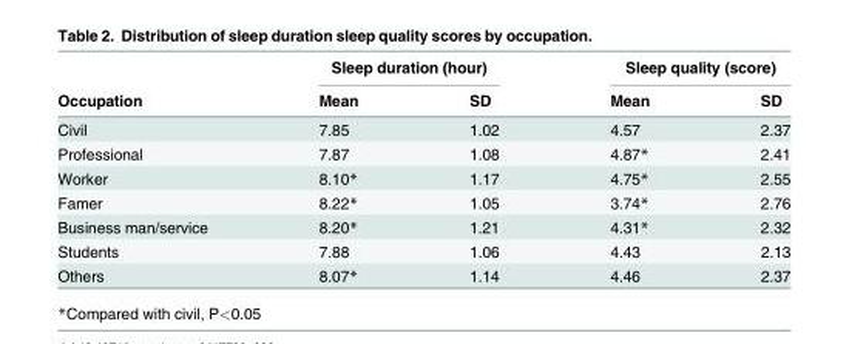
<table><thead><tr><td rowspan="2">Occupation</td><td colspan="2">Sleep duration (hour)</td><td colspan="2">Sleep quality (score)</td></tr><tr><td>Mean</td><td>SD</td><td>Mean</td><td>SD</td></tr></thead><tbody><tr><td>Civil</td><td>7.85</td><td>1.02</td><td>4.57</td><td>2.37</td></tr><tr><td>Professional</td><td>7.87</td><td>1.08</td><td>4.87*</td><td>2.41</td></tr><tr><td>Worker</td><td>8.10*</td><td>1.17</td><td>4.75*</td><td>2.55</td></tr><tr><td>Famer</td><td>8.22*</td><td>1.05</td><td>3.74*</td><td>2.76</td></tr><tr><td>Business man/service</td><td>8.20*</td><td>1.21</td><td>4.31*</td><td>2.32</td></tr><tr><td>Students</td><td>7.88</td><td>1.06</td><td>4.43</td><td>2.13</td></tr><tr><td>Others</td><td>8.07*</td><td>1.14</td><td>4.46</td><td>2.37</td></tr></tbody></table>